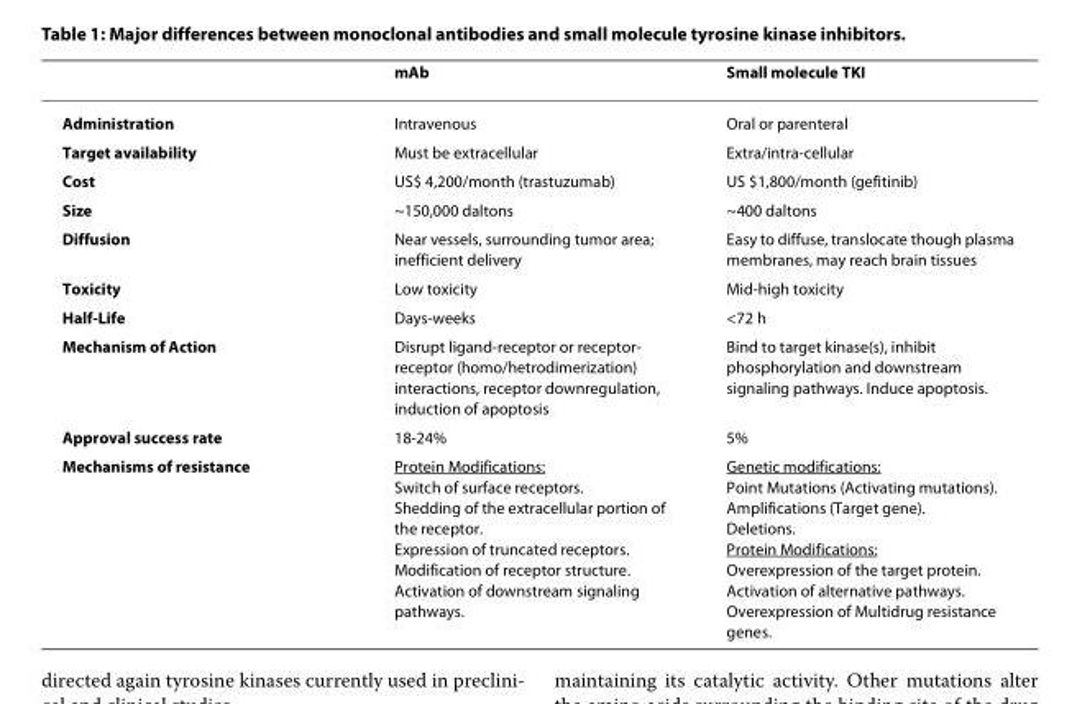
<table><thead><tr><td></td><td>mAb</td><td>Small molecule TKI</td></tr></thead><tbody><tr><td>Administration</td><td>Intravenous</td><td>Oral or parenteral</td></tr><tr><td>Target availability</td><td>Must be extracellular</td><td>Extra/intra-cellular</td></tr><tr><td>Cost</td><td>US$ 4,200/month (trastuzumab)</td><td>US $1,800/month (gefitinib)</td></tr><tr><td>Size</td><td>~150,000 daltons</td><td>~400 daltons</td></tr><tr><td>Diffusion</td><td>Near vessels, surrounding tumor area; inefficient delivery</td><td>Easy to diffuse, translocate though plasma membranes, may reach brain tissues</td></tr><tr><td>Toxicity</td><td>Low toxicity</td><td>Mid-high toxicity</td></tr><tr><td>Half-Life</td><td>Days-weeks</td><td>&lt;72 h</td></tr><tr><td>Mechanism of Action</td><td>Disrupt ligand-receptor or receptor- receptor (homo/hetrodimerization) interactions, receptor downregulation, induction of apoptosis</td><td>Bind to target kinase(s), inhibit phosphorylation and downstream signaling pathways. Induce apoptosis.</td></tr><tr><td>Approval success rate</td><td>18-24%</td><td>5%</td></tr><tr><td>Mechanisms of resistance</td><td>Protein Modifications: Switch of surface receptors. Shedding of the extracellular portion of the receptor. Expression of truncated receptors. Modification of receptor structure. Activation of downstream signaling pathways.</td><td>Genetic modifications: Point Mutations (Activating mutations). Amplifications (Target gene). Deletions. Protein Modifications: Overexpression of the target protein. Activation of alternative pathways. Overexpression of Multidrug resistance genes.</td></tr></tbody></table>